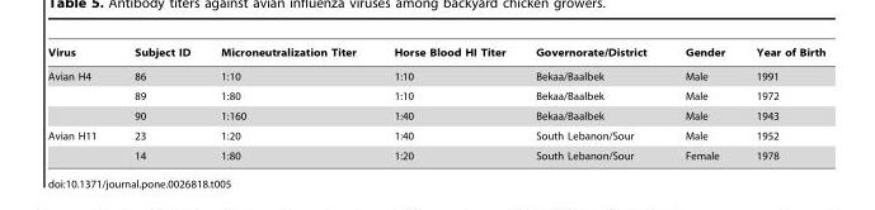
<table><thead><tr><td>Virus</td><td>Subject ID</td><td>Microneutralization Titer</td><td>Horse Blood HI Titer</td><td>Governorate/District</td><td>Gender</td><td>Year of Birth</td></tr></thead><tbody><tr><td rowspan="3">Avian H4</td><td>86</td><td>1:10</td><td>1:10</td><td>Bekaa/Baalbek</td><td>Male</td><td>1991</td></tr><tr><td>89</td><td>1:80</td><td>1:10</td><td>Bekaa/Baalbek</td><td>Male</td><td>1972</td></tr><tr><td>90</td><td>1:160</td><td>1:40</td><td>Bekaa/Baalbek</td><td>Male</td><td>1943</td></tr><tr><td rowspan="2">Avian H11</td><td>23</td><td>1:20</td><td>1:40</td><td>South Lebanon/Sour</td><td>Male</td><td>1952</td></tr><tr><td>14</td><td>1:80</td><td>1:20</td><td>South Lebanon/Sour</td><td>Female</td><td>1978</td></tr></tbody></table>